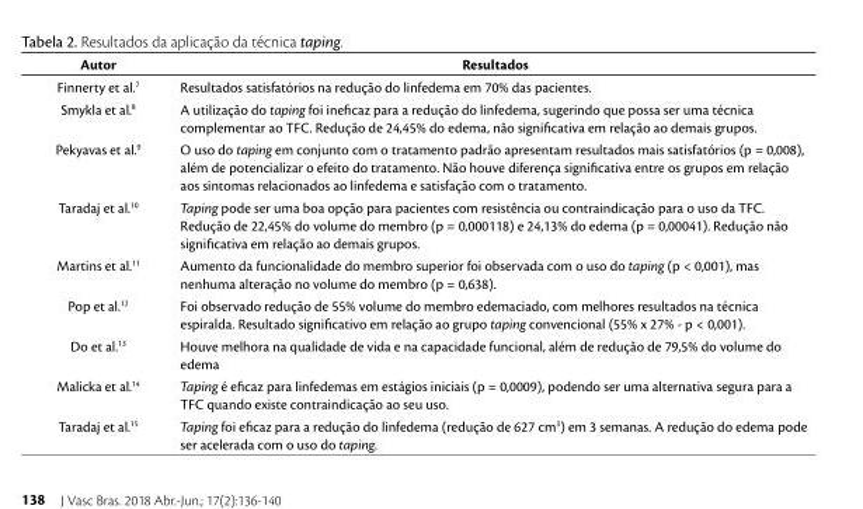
<table><thead><tr><td>Autor</td><td>Resultados</td></tr></thead><tbody><tr><td>Finnerty et al.7</td><td>Resultados satisfatórios na redução do linfedema em 70% das pacientes.</td></tr><tr><td>Smykla et al.8</td><td>A utilização do taping foi ineficaz para a redução do linfedema, sugerindo que possa ser uma técnica complementar ao TFC. Redução de 24,45% do edema, não significativa em relação ao demais grupos.</td></tr><tr><td>Pekyavas et al.9</td><td>O uso do taping em conjunto com o tratamento padrão apresentam resultados mais satisfatórios (p = 0,008), além de potencializar o efeito do tratamento. Não houve diferença significativa entre os grupos em relação aos sintomas relacionados ao linfedema e satisfação com o tratamento.</td></tr><tr><td>Taradaj et al.10</td><td>Taping pode ser uma boa opção para pacientes com resistência ou contraindicação para o uso da TFC. Redução de 22,45% do volume do membro (p = 0,000118) e 24,13% do edema (p = 0,00041). Redução não significativa em relação ao demais grupos.</td></tr><tr><td>Martins et al.11</td><td>Aumento da funcionalidade do membro superior foi observada com o uso do taping (p &lt; 0,001), mas nenhuma alteração no volume do membro (p = 0,638).</td></tr><tr><td>Pop et al.12</td><td>Foi observado redução de 55% volume do membro edemaciado, com melhores resultados na técnica espiralda. Resultado significativo em relação ao grupo taping convencional (55% x 27% - p &lt; 0,001).</td></tr><tr><td>Do et al.13</td><td>Houve melhora na qualidade de vida e na capacidade funcional, além de redução de 79,5% do volume do edema</td></tr><tr><td>Malicka et al.14</td><td>Taping é eficaz para linfedemas em estágios iniciais (p = 0,0009), podendo ser uma alternativa segura para a TFC quando existe contraindicação ao seu uso.</td></tr><tr><td>Taradaj et al.15</td><td>Taping foi eficaz para a redução do linfedema (redução de 627 cm3) em 3 semanas. A redução do edema pode ser acelerada com o uso do taping.</td></tr></tbody></table>